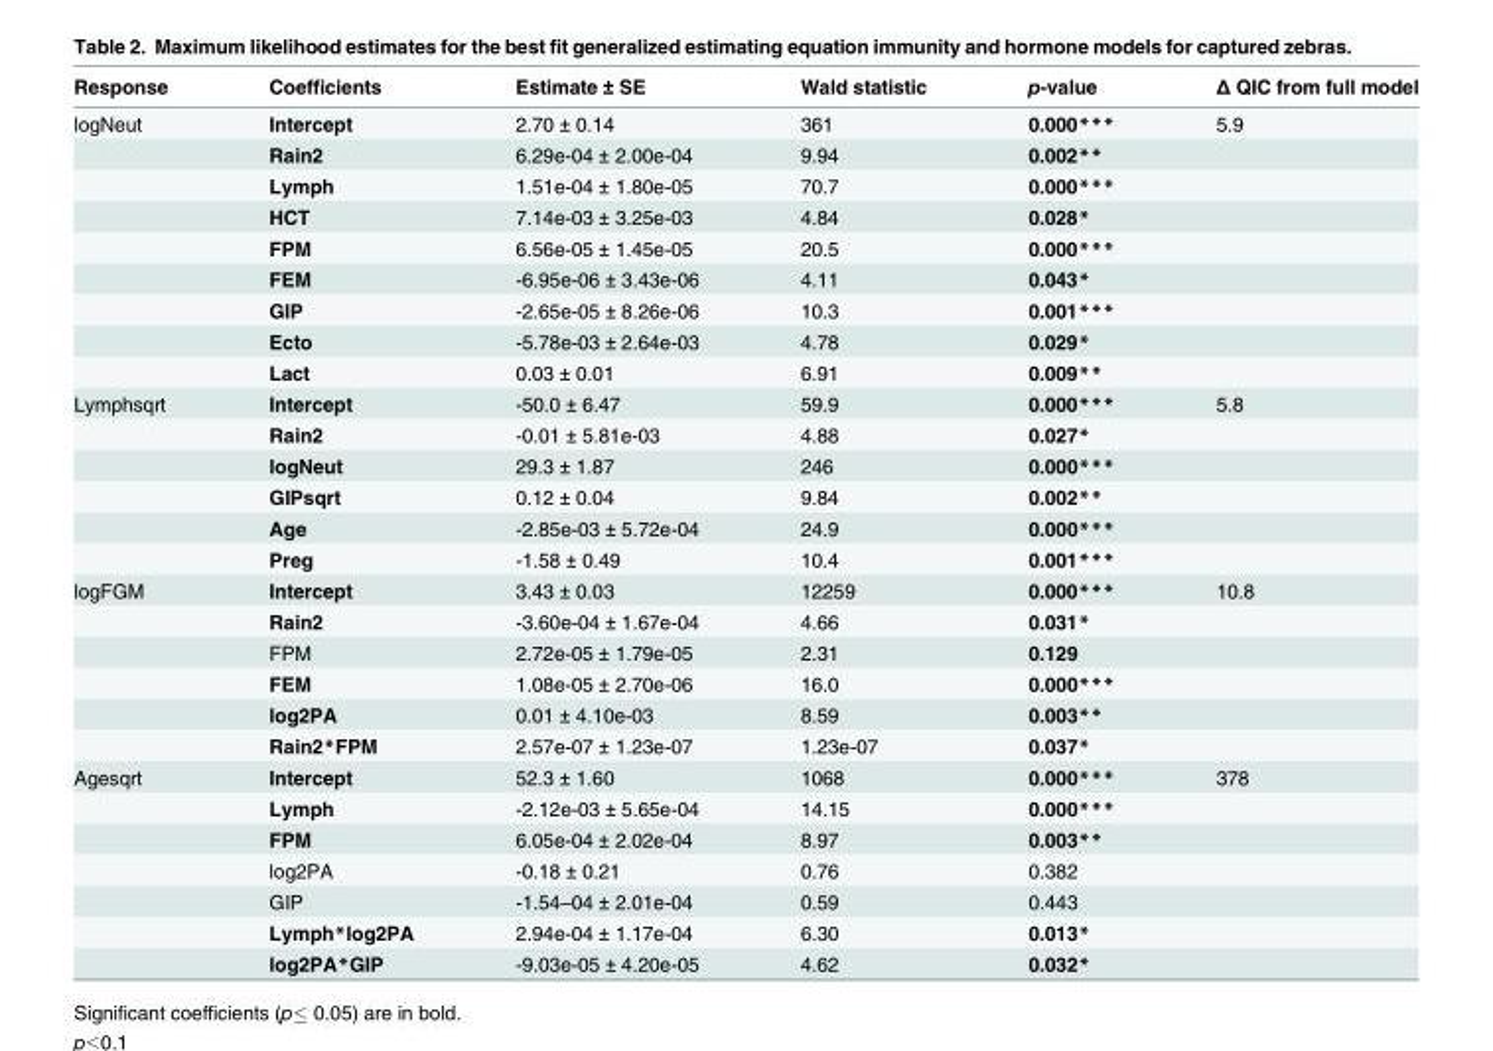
<table><thead><tr><td>Response</td><td>Coefficients</td><td>Estimate ± SE</td><td>Wald statistic</td><td>p-value</td><td>Δ QIC from full model</td></tr></thead><tbody><tr><td rowspan="9">logNeut</td><td>Intercept</td><td>2.70 ± 0.14</td><td>361</td><td>0.000***</td><td>5.9</td></tr><tr><td>Rain2</td><td>6.29e-04 ± 2.00e-04</td><td>9.94</td><td>0.002**</td><td></td></tr><tr><td>Lymph</td><td>1.51e-04 ± 1.80e-05</td><td>70.7</td><td>0.000***</td><td></td></tr><tr><td>HCT</td><td>7.14e-03 ± 3.25e-03</td><td>4.84</td><td>0.028*</td><td></td></tr><tr><td>FPM</td><td>6.56e-05 ± 1.45e-05</td><td>20.5</td><td>0.000***</td><td></td></tr><tr><td>FEM</td><td>-6.95e-06 ± 3.43e-06</td><td>4.11</td><td>0.043*</td><td></td></tr><tr><td>GIP</td><td>-2.65e-05 ± 8.26e-06</td><td>10.3</td><td>0.001***</td><td></td></tr><tr><td>Ecto</td><td>-5.78e-03 ± 2.64e-03</td><td>4.78</td><td>0.029*</td><td></td></tr><tr><td>Lact</td><td>0.03 ± 0.01</td><td>6.91</td><td>0.009**</td><td></td></tr><tr><td rowspan="6">Lymphsqrt</td><td>Intercept</td><td>-50.0 ± 6.47</td><td>59.9</td><td>0.000***</td><td>5.8</td></tr><tr><td>Rain2</td><td>-0.01 ± 5.81e-03</td><td>4.88</td><td>0.027*</td><td></td></tr><tr><td>logNeut</td><td>29.3 ± 1.87</td><td>246</td><td>0.000***</td><td></td></tr><tr><td>GIPsqrt</td><td>0.12 ± 0.04</td><td>9.84</td><td>0.002**</td><td></td></tr><tr><td>Age</td><td>-2.85e-03 ± 5.72e-04</td><td>24.9</td><td>0.000***</td><td></td></tr><tr><td>Preg</td><td>-1.58 ± 0.49</td><td>10.4</td><td>0.001***</td><td></td></tr><tr><td rowspan="6">logFGM</td><td>Intercept</td><td>3.43 ± 0.03</td><td>12259</td><td>0.000***</td><td>10.8</td></tr><tr><td>Rain2</td><td>-3.60e-04 ± 1.67e-04</td><td>4.66</td><td>0.031*</td><td></td></tr><tr><td>FPM</td><td>2.72e-05 ± 1.79e-05</td><td>2.31</td><td>0.129</td><td></td></tr><tr><td>FEM</td><td>1.08e-05 ± 2.70e-06</td><td>16.0</td><td>0.000***</td><td></td></tr><tr><td>log2PA</td><td>0.01 ± 4.10e-03</td><td>8.59</td><td>0.003**</td><td></td></tr><tr><td>Rain2*FPM</td><td>2.57e-07 ± 1.23e-07</td><td>1.23e-07</td><td>0.037*</td><td></td></tr><tr><td rowspan="7">Agesqrt</td><td>Intercept</td><td>52.3 ± 1.60</td><td>1068</td><td>0.000***</td><td>378</td></tr><tr><td>Lymph</td><td>-2.12e-03 ± 5.65e-04</td><td>14.15</td><td>0.000***</td><td></td></tr><tr><td>FPM</td><td>6.05e-04 ± 2.02e-04</td><td>8.97</td><td>0.003**</td><td></td></tr><tr><td>log2PA</td><td>-0.18 ± 0.21</td><td>0.76</td><td>0.382</td><td></td></tr><tr><td>GIP</td><td>-1.54–04 ± 2.01e-04</td><td>0.59</td><td>0.443</td><td></td></tr><tr><td>Lymph*log2PA</td><td>2.94e-04 ± 1.17e-04</td><td>6.30</td><td>0.013*</td><td></td></tr><tr><td>log2PA*GIP</td><td>-9.03e-05 ± 4.20e-05</td><td>4.62</td><td>0.032*</td><td></td></tr></tbody></table>